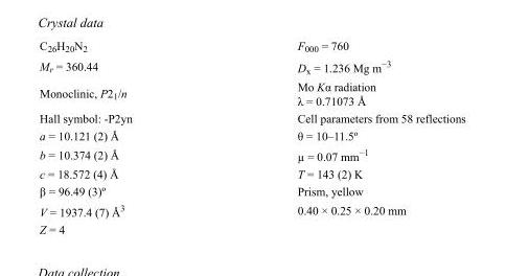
<table><tbody><tr><td>C<sub>26</sub>H<sub>20</sub>N<sub>2</sub></td><td>F000 = 760</td></tr><tr><td>M<sub>r</sub> = 360.44</td><td>D<sub>x</sub> = 1.236 Mg m<sup>−3</sup></td></tr><tr><td>Monoclinic, P2<sub>1</sub>/n</td><td>Mo Kα radiation λ = 0.71073 Å</td></tr><tr><td>Hall symbol: -P2yn</td><td>Cell parameters from 58 reflections</td></tr><tr><td>a = 10.121 (2) Å</td><td>θ = 10–11.5º</td></tr><tr><td>b = 10.374 (2) Å</td><td>µ = 0.07 mm<sup>−1</sup></td></tr><tr><td>c = 18.572 (4) Å</td><td>T = 143 (2) K</td></tr><tr><td>β = 96.49 (3)º</td><td>Prism, yellow</td></tr><tr><td>V = 1937.4 (7) Å<sup>3</sup></td><td>0.40 × 0.25 × 0.20 mm</td></tr><tr><td>Z = 4</td><td></td></tr></tbody></table>